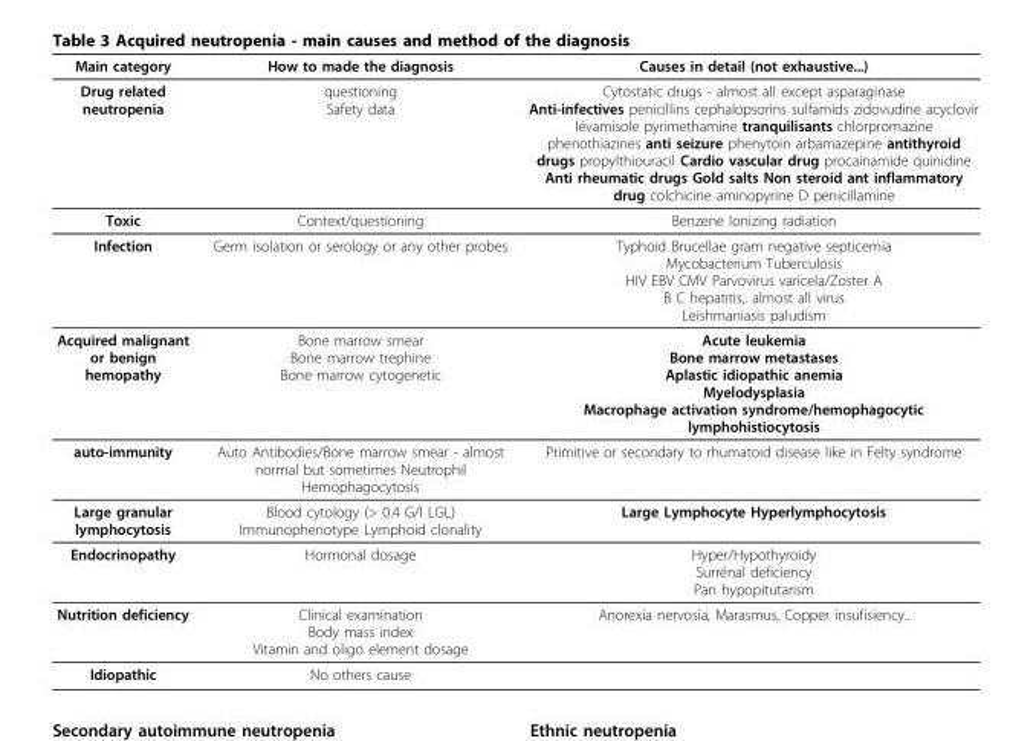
<table><thead><tr><td>Main category</td><td>How to made the diagnosis</td><td>Causes in detail (not exhaustive...)</td></tr></thead><tbody><tr><td>Drug related neutropenia</td><td>questioning Safety data</td><td>Cytostatic drugs - almost all except asparaginase Anti-infectives penicillins cephalopsorins sulfamids zidovudine acyclovir lévamisole pyrimethamine tranquilisants chlorpromazine phenothiazines anti seizure phenytoin arbamazepine antithyroid drugs propylthiouracil Cardio vascular drug procainamide quinidine Anti rheumatic drugs Gold salts Non steroid ant inflammatory drug colchicine aminopyrine D penicillamine</td></tr><tr><td>Toxic</td><td>Context/questioning</td><td>Benzene Ionizing radiation</td></tr><tr><td>Infection</td><td>Germ isolation or serology or any other probes</td><td>Typhoid Brucellae gram negative septicemia Mycobacterium Tuberculosis HIV EBV CMV Parvovirus varicela/Zoster A B C hepatitis,. almost all virus Leishmaniasis paludism</td></tr><tr><td>Acquired malignant or benign hemopathy</td><td>Bone marrow smear Bone marrow trephine Bone marrow cytogenetic</td><td>Acute leukemia Bone marrow metastases Aplastic idiopathic anemia Myelodysplasia Macrophage activation syndrome/hemophagocytic lymphohistiocytosis</td></tr><tr><td>auto-immunity</td><td>Auto Antibodies/Bone marrow smear - almost normal but sometimes Neutrophil Hemophagocytosis</td><td>Primitive or secondary to rhumatoid disease like in Felty syndrome</td></tr><tr><td>Large granular lymphocytosis</td><td>Blood cytology (&gt; 0.4 G/l LGL) Immunophenotype Lymphoid clonality</td><td>Large Lymphocyte Hyperlymphocytosis</td></tr><tr><td>Endocrinopathy</td><td>Hormonal dosage</td><td>Hyper/Hypothyroidy Surrénal deficiency Pan hypopitutarism</td></tr><tr><td>Nutrition deficiency</td><td>Clinical examination Body mass index Vitamin and oligo element dosage</td><td>Anorexia nervosia, Marasmus, Copper insufisiency..</td></tr><tr><td>Idiopathic</td><td>No others cause</td><td></td></tr></tbody></table>